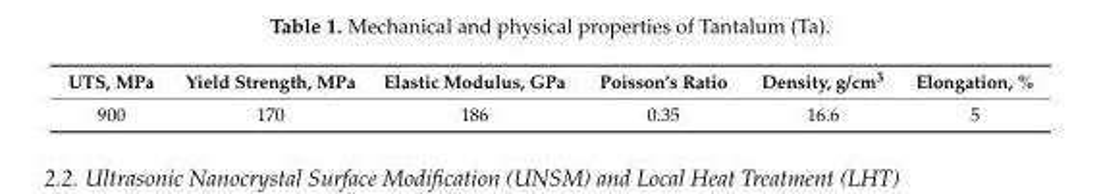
<table><thead><tr><td>UTS, MPa</td><td>Yield Strength, MPa</td><td>Elastic Modulus, GPa</td><td>Poisson’s Ratio</td><td>Density, g/cm<sup>3</sup></td><td>Elongation, %</td></tr></thead><tbody><tr><td>900</td><td>170</td><td>186</td><td>0.35</td><td>16.6</td><td>5</td></tr></tbody></table>